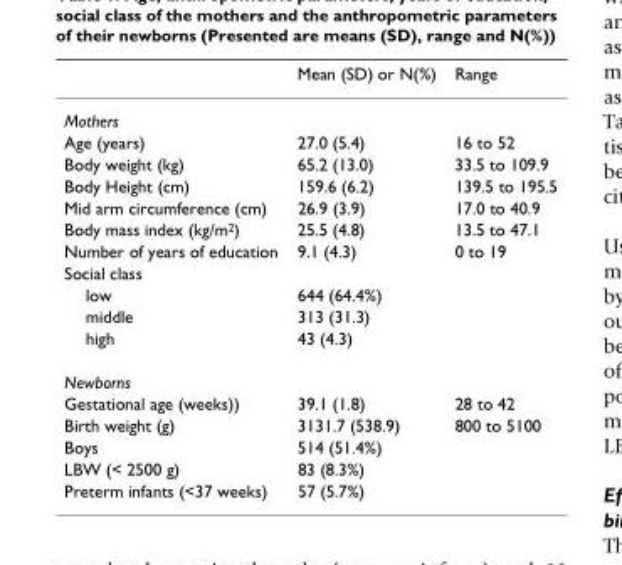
<table><thead><tr><td></td><td>Mean (SD) or N(%)</td><td>Range</td></tr></thead><tbody><tr><td colspan="3">Mothers</td></tr><tr><td>Age (years)</td><td>27.0 (5.4)</td><td>16 to 52</td></tr><tr><td>Body weight (kg)</td><td>65.2 (13.0)</td><td>33.5 to 109.9</td></tr><tr><td>Body Height (cm)</td><td>159.6 (6.2)</td><td>139.5 to 195.5</td></tr><tr><td>Mid arm circumference (cm)</td><td>26.9 (3.9)</td><td>17.0 to 40.9</td></tr><tr><td>Body mass index (kg/m<sup>2</sup>)</td><td>25.5 (4.8)</td><td>13.5 to 47.1</td></tr><tr><td>Number of years of education</td><td>9.1 (4.3)</td><td>0 to 19</td></tr><tr><td colspan="3">Social class</td></tr><tr><td>low</td><td>644 (64.4%)</td><td></td></tr><tr><td>middle</td><td>313 (31.3)</td><td></td></tr><tr><td>high</td><td>43 (4.3)</td><td></td></tr><tr><td colspan="3">Newborns</td></tr><tr><td>Gestational age (weeks))</td><td>39.1 (1.8)</td><td>28 to 42</td></tr><tr><td>Birth weight (g)</td><td>3131.7 (538.9)</td><td>800 to 5100</td></tr><tr><td>Boys</td><td>514 (51.4%)</td><td></td></tr><tr><td>LBW (&lt; 2500 g)</td><td>83 (8.3%)</td><td></td></tr><tr><td>Preterm infants (&lt;37 weeks)</td><td>57 (5.7%)</td><td></td></tr></tbody></table>